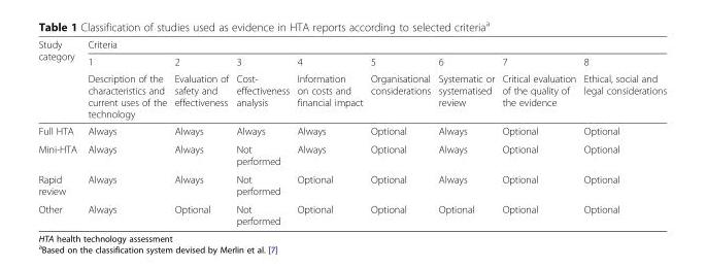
<table><thead><tr><td rowspan="3">Study category</td><td colspan="8">Criteria</td></tr><tr><td rowspan="2">1 Description of the characteristics and current uses of the technology</td><td rowspan="2">2 Evaluation of safety and effectiveness</td><td rowspan="2">3 Cost- effectiveness analysis</td><td rowspan="2">4 Information on costs and financial impact</td><td rowspan="2">5 Organisational considerations</td><td rowspan="2">6 Systematic or systematised review</td><td rowspan="2">7 Critical evaluation of the quality of the evidence</td><td rowspan="2">8 Ethical, social and legal considerations</td></tr><tr></tr></thead><tbody><tr><td>Full HTA</td><td>Always</td><td>Always</td><td>Always</td><td>Always</td><td>Optional</td><td>Always</td><td>Optional</td><td>Optional</td></tr><tr><td>Mini-HTA</td><td>Always</td><td>Always</td><td>Not performed</td><td>Always</td><td>Optional</td><td>Always</td><td>Optional</td><td>Optional</td></tr><tr><td>Rapid review</td><td>Always</td><td>Always</td><td>Not performed</td><td>Optional</td><td>Optional</td><td>Always</td><td>Optional</td><td>Optional</td></tr><tr><td>Other</td><td>Always</td><td>Optional</td><td>Not performed</td><td>Optional</td><td>Optional</td><td>Optional</td><td>Optional</td><td>Optional</td></tr></tbody></table>